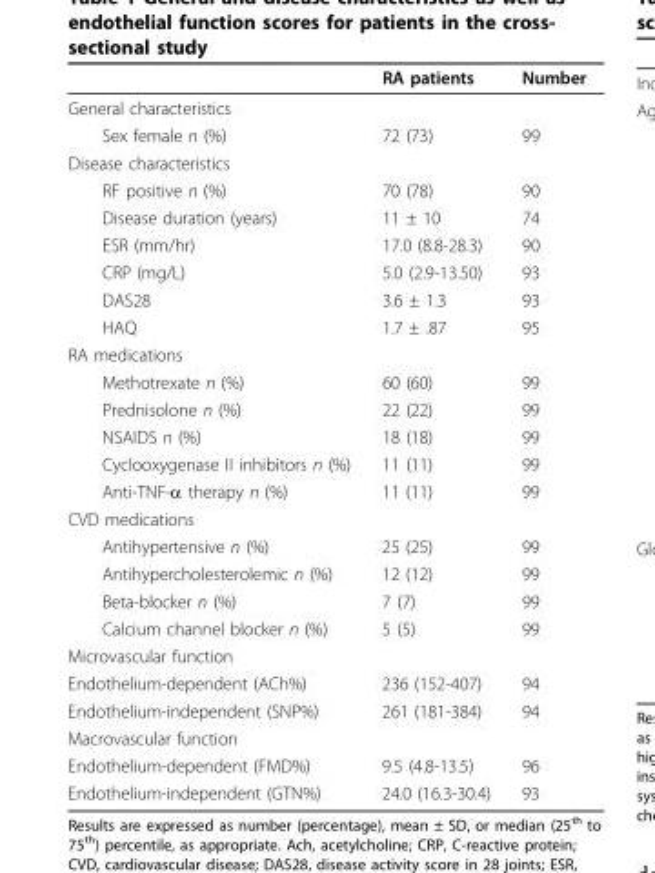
<table><thead><tr><td></td><td>RA patients</td><td>Number</td></tr></thead><tbody><tr><td colspan="3">General characteristics</td></tr><tr><td>Sex female n (%)</td><td>72 (73)</td><td>99</td></tr><tr><td colspan="3">Disease characteristics</td></tr><tr><td>RF positive n (%)</td><td>70 (78)</td><td>90</td></tr><tr><td>Disease duration (years)</td><td>11 ± 10</td><td>74</td></tr><tr><td>ESR (mm/hr)</td><td>17.0 (8.8-28.3)</td><td>90</td></tr><tr><td>CRP (mg/L)</td><td>5.0 (2.9-13.50)</td><td>93</td></tr><tr><td>DAS28</td><td>3.6 ± 1.3</td><td>93</td></tr><tr><td>HAQ</td><td>1.7 ± .87</td><td>95</td></tr><tr><td colspan="3">RA medications</td></tr><tr><td>Methotrexate n (%)</td><td>60 (60)</td><td>99</td></tr><tr><td>Prednisolone n (%)</td><td>22 (22)</td><td>99</td></tr><tr><td>NSAIDS n (%)</td><td>18 (18)</td><td>99</td></tr><tr><td>Cyclooxygenase II inhibitors n (%)</td><td>11 (11)</td><td>99</td></tr><tr><td>Anti-TNF-α therapy n (%)</td><td>11 (11)</td><td>99</td></tr><tr><td colspan="3">CVD medications</td></tr><tr><td>Antihypertensive n (%)</td><td>25 (25)</td><td>99</td></tr><tr><td>Antihypercholesterolemic n (%)</td><td>12 (12)</td><td>99</td></tr><tr><td>Beta-blocker n (%)</td><td>7 (7)</td><td>99</td></tr><tr><td>Calcium channel blocker n (%)</td><td>5 (5)</td><td>99</td></tr><tr><td colspan="3">Microvascular function</td></tr><tr><td>Endothelium-dependent (ACh%)</td><td>236 (152-407)</td><td>94</td></tr><tr><td>Endothelium-independent (SNP%)</td><td>261 (181-384)</td><td>94</td></tr><tr><td colspan="3">Macrovascular function</td></tr><tr><td>Endothelium-dependent (FMD%)</td><td>9.5 (4.8-13.5)</td><td>96</td></tr><tr><td>Endothelium-independent (GTN%)</td><td>24.0 (16.3-30.4)</td><td>93</td></tr></tbody></table>